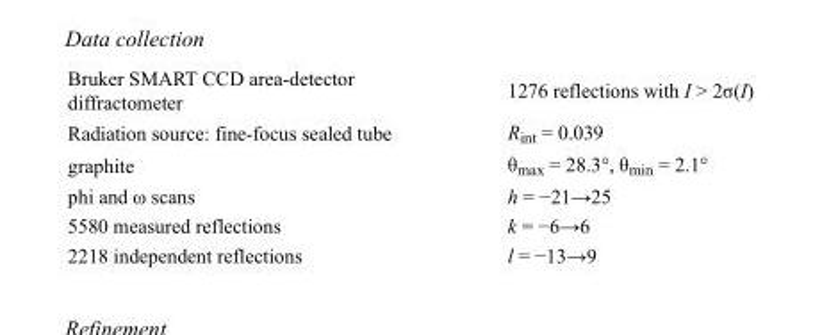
<table><tbody><tr><td>Bruker SMART CCD area-detector diffractometer</td><td>1276 reflections with I &gt; 2σ(I)</td></tr><tr><td>Radiation source: fine-focus sealed tube</td><td>R<sub>int</sub> = 0.039</td></tr><tr><td>graphite</td><td>θ<sub>max</sub> = 28.3°, θ<sub>min</sub> = 2.1°</td></tr><tr><td>phi and ω scans</td><td>h = −21→25</td></tr><tr><td>5580 measured reflections</td><td>k = −6→6</td></tr><tr><td>2218 independent reflections</td><td>l = −13→9</td></tr></tbody></table>